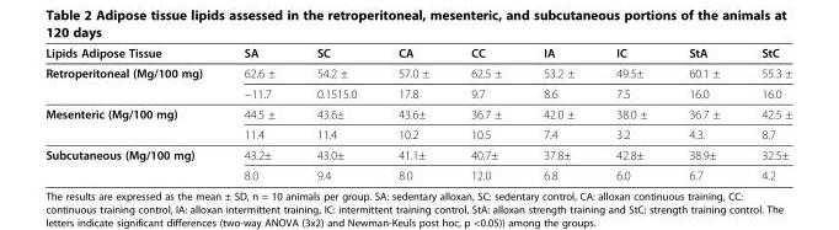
<table><thead><tr><td>Lipids Adipose Tissue</td><td>SA</td><td>SC</td><td>CA</td><td>CC</td><td>IA</td><td>IC</td><td>StA</td><td>StC</td></tr></thead><tbody><tr><td rowspan="2">Retroperitoneal (Mg/100 mg)</td><td>62.6 ±</td><td>54.2 ±</td><td>57.0 ±</td><td>62.5 ±</td><td>53.2 ±</td><td>49.5±</td><td>60.1 ±</td><td>55.3 ±</td></tr><tr><td>−11.7</td><td>0.1515.0</td><td>17.8</td><td>9.7</td><td>8.6</td><td>7.5</td><td>16.0</td><td>16.0</td></tr><tr><td rowspan="2">Mesenteric (Mg/100 mg)</td><td>44.5 ±</td><td>43.6±</td><td>43.6±</td><td>36.7 ±</td><td>42.0 ±</td><td>38.0 ±</td><td>36.7 ±</td><td>42.5 ±</td></tr><tr><td>11.4</td><td>11.4</td><td>10.2</td><td>10.5</td><td>7.4</td><td>3.2</td><td>4.3.</td><td>8.7</td></tr><tr><td rowspan="2">Subcutaneous (Mg/100 mg)</td><td>43.2±</td><td>43.0±</td><td>41.1±</td><td>40.7±</td><td>37.8±</td><td>42.8±</td><td>38.9±</td><td>32.5±</td></tr><tr><td>8.0</td><td>9.4</td><td>8.0</td><td>12.0</td><td>6.8</td><td>6.0</td><td>6.7</td><td>4.2</td></tr></tbody></table>